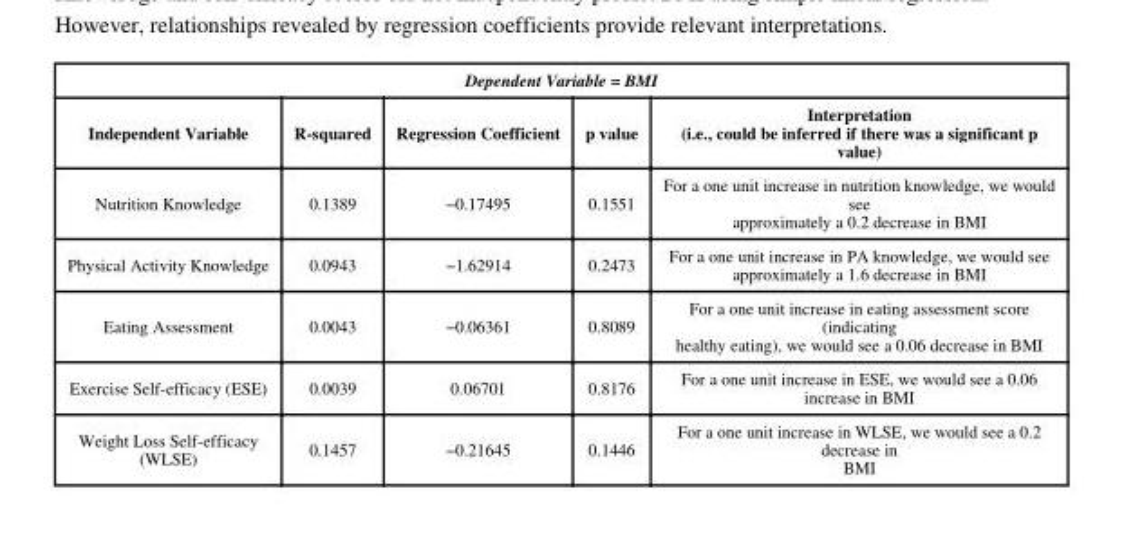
<table><thead><tr><td colspan="5">Dependent Variable = BMI</td></tr><tr><td>Independent Variable</td><td>R-squared</td><td>Regression Coefficient</td><td>p value</td><td>Interpretation (i.e., could be inferred if there was a significant p value)</td></tr></thead><tbody><tr><td>Nutrition Knowledge</td><td>0.1389</td><td>−0.17495</td><td>0.1551</td><td>For a one unit increase in nutrition knowledge, we would see approximately a 0.2 decrease in BMI</td></tr><tr><td>Physical Activity Knowledge</td><td>0.0943</td><td>−1.62914</td><td>0.2473</td><td>For a one unit increase in PA knowledge, we would see approximately a 1.6 decrease in BMI</td></tr><tr><td>Eating Assessment</td><td>0.0043</td><td>−0.06361</td><td>0.8089</td><td>For a one unit increase in eating assessment score (indicating healthy eating), we would see a 0.06 decrease in BMI</td></tr><tr><td>Exercise Self-efficacy (ESE)</td><td>0.0039</td><td>0.06701</td><td>0.8176</td><td>For a one unit increase in ESE, we would see a 0.06 increase in BMI</td></tr><tr><td>Weight Loss Self-efficacy (WLSE)</td><td>0.1457</td><td>−0.21645</td><td>0.1446</td><td>For a one unit increase in WLSE, we would see a 0.2 decrease in BMI</td></tr></tbody></table>